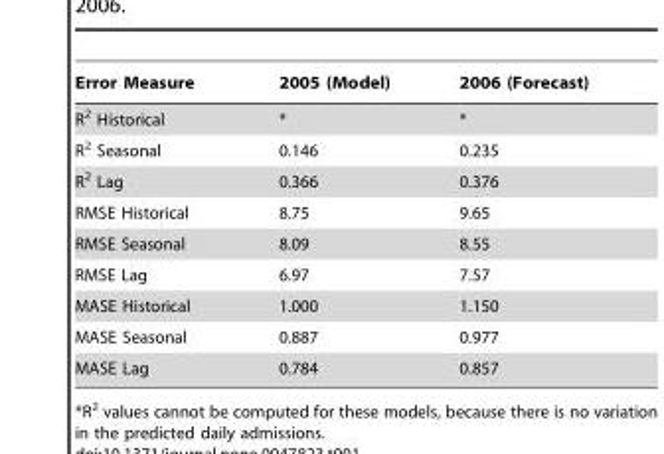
<table><thead><tr><td>Error Measure</td><td>2005 (Model)</td><td>2006 (Forecast)</td></tr></thead><tbody><tr><td>R<sup>2</sup> Historical</td><td>*</td><td>*</td></tr><tr><td>R<sup>2</sup> Seasonal</td><td>0.146</td><td>0.235</td></tr><tr><td>R<sup>2</sup> Lag</td><td>0.366</td><td>0.376</td></tr><tr><td>RMSE Historical</td><td>8.75</td><td>9.65</td></tr><tr><td>RMSE Seasonal</td><td>8.09</td><td>8.55</td></tr><tr><td>RMSE Lag</td><td>6.97</td><td>7.57</td></tr><tr><td>MASE Historical</td><td>1.000</td><td>1.150</td></tr><tr><td>MASE Seasonal</td><td>0.887</td><td>0.977</td></tr><tr><td>MASE Lag</td><td>0.784</td><td>0.857</td></tr></tbody></table>